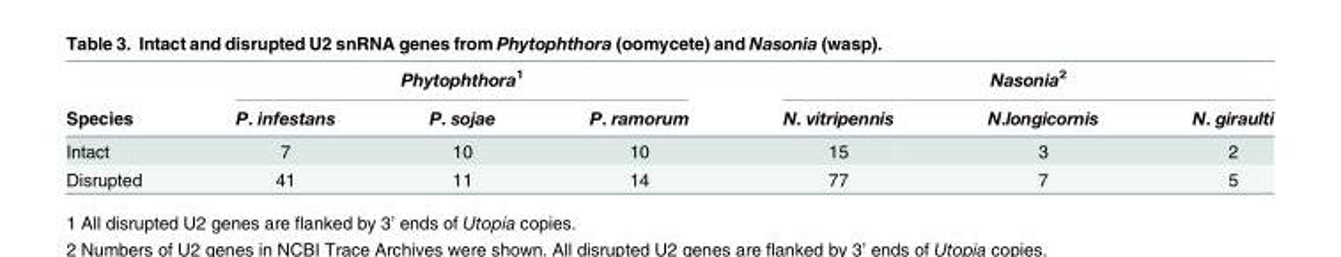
<table><thead><tr><td rowspan="2">Species</td><td colspan="3">Phytophthora<sup>1</sup></td><td colspan="3">Nasonia<sup>2</sup></td></tr><tr><td>P. infestans</td><td>P. sojae</td><td>P. ramorum</td><td>N. vitripennis</td><td>N.longicornis</td><td>N. giraulti</td></tr></thead><tbody><tr><td>Intact</td><td>7</td><td>10</td><td>10</td><td>15</td><td>3</td><td>2</td></tr><tr><td>Disrupted</td><td>41</td><td>11</td><td>14</td><td>77</td><td>7</td><td>5</td></tr></tbody></table>